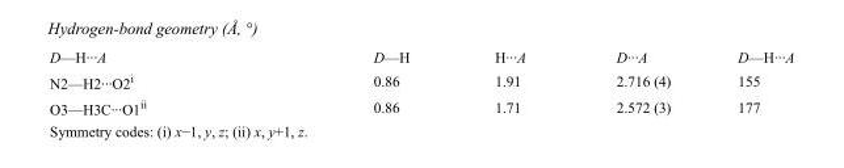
<table><tbody><tr><td>D—H···A</td><td>D—H</td><td>H···A</td><td>D···A</td><td>D—H···A</td></tr><tr><td>N2—H2···O2<sup>i</sup></td><td>0.86</td><td>1.91</td><td>2.716 (4)</td><td>155</td></tr><tr><td>O3—H3C···O1<sup>ii</sup></td><td>0.86</td><td>1.71</td><td>2.572 (3)</td><td>177</td></tr></tbody></table>